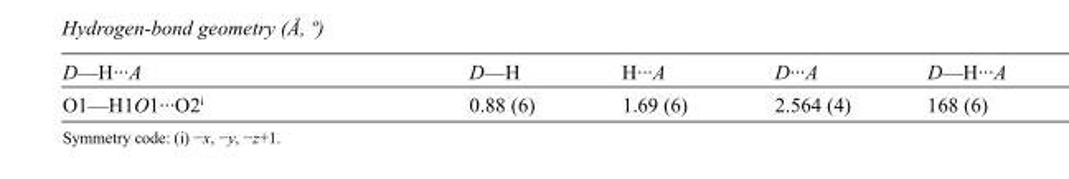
<table><tbody><tr><td>D—H···A</td><td>D—H</td><td>H···A</td><td>D···A</td><td>D—H···A</td></tr><tr><td>O1—H1O1···O2<sup>i</sup></td><td>0.88 (6)</td><td>1.69 (6)</td><td>2.564 (4)</td><td>168 (6)</td></tr></tbody></table>